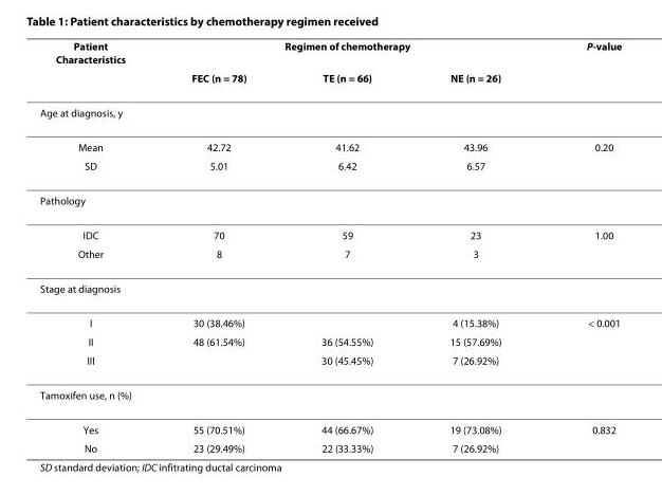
<table><thead><tr><td rowspan="2">Patient Characteristics</td><td colspan="3">Regimen of chemotherapy</td><td rowspan="2">P-value</td></tr><tr><td>FEC (n = 78)</td><td>TE (n = 66)</td><td>NE (n = 26)</td></tr></thead><tbody><tr><td colspan="5">Age at diagnosis, y</td></tr><tr><td>Mean</td><td>42.72</td><td>41.62</td><td>43.96</td><td>0.20</td></tr><tr><td>SD</td><td>5.01</td><td>6.42</td><td>6.57</td><td></td></tr><tr><td colspan="5">Pathology</td></tr><tr><td>IDC</td><td>70</td><td>59</td><td>23</td><td>1.00</td></tr><tr><td>Other</td><td>8</td><td>7</td><td>3</td><td></td></tr><tr><td colspan="5">Stage at diagnosis</td></tr><tr><td>I</td><td>30 (38.46%)</td><td></td><td>4 (15.38%)</td><td>&lt; 0.001</td></tr><tr><td>II</td><td>48 (61.54%)</td><td>36 (54.55%)</td><td>15 (57.69%)</td><td></td></tr><tr><td>III</td><td></td><td>30 (45.45%)</td><td>7 (26.92%)</td><td></td></tr><tr><td colspan="5">Tamoxifen use, n (%)</td></tr><tr><td>Yes</td><td>55 (70.51%)</td><td>44 (66.67%)</td><td>19 (73.08%)</td><td>0.832</td></tr><tr><td>No</td><td>23 (29.49%)</td><td>22 (33.33%)</td><td>7 (26.92%)</td><td></td></tr></tbody></table>